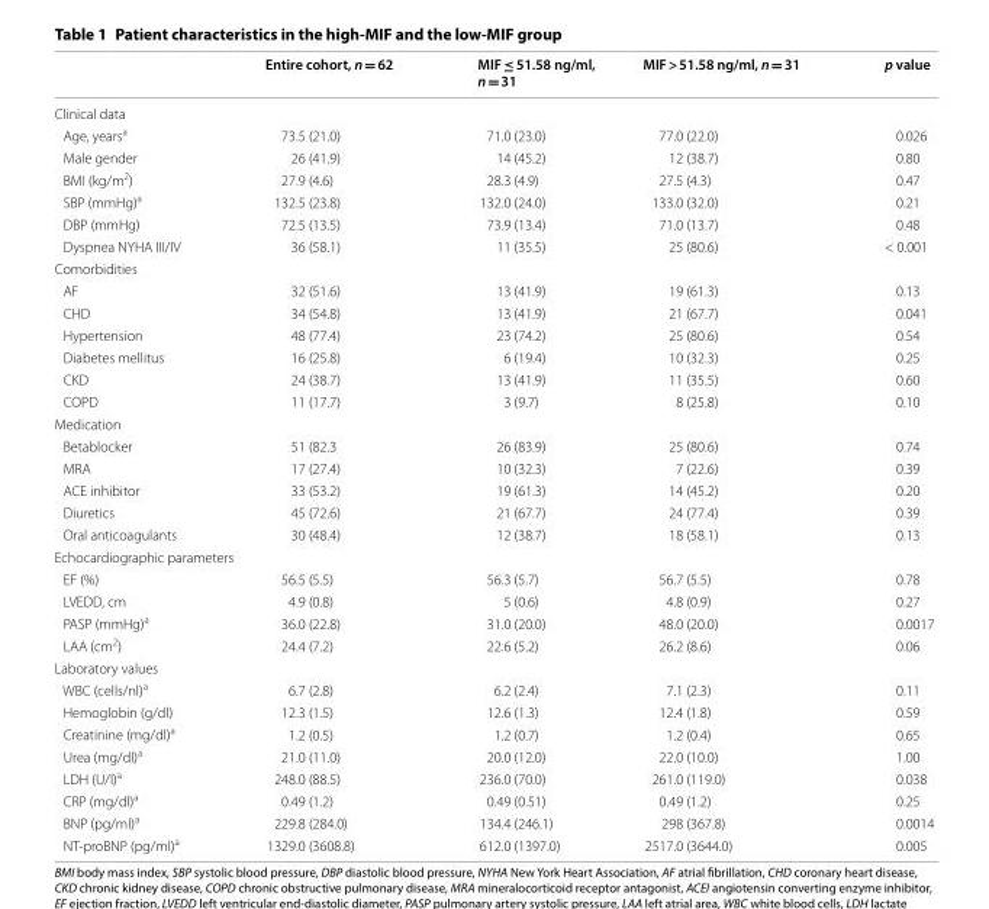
<table><thead><tr><td></td><td>Entire cohort, n = 62</td><td>MIF ≤ 51.58 ng/ml, n = 31</td><td>MIF &gt; 51.58 ng/ml, n = 31</td><td>p value</td></tr></thead><tbody><tr><td colspan="5">Clinical data</td></tr><tr><td>Age, years<sup>a</sup></td><td>73.5 (21.0)</td><td>71.0 (23.0)</td><td>77.0 (22.0)</td><td>0.026</td></tr><tr><td>Male gender</td><td>26 (41.9)</td><td>14 (45.2)</td><td>12 (38.7)</td><td>0.80</td></tr><tr><td>BMI (kg/m<sup>2</sup>)</td><td>27.9 (4.6)</td><td>28.3 (4.9)</td><td>27.5 (4.3)</td><td>0.47</td></tr><tr><td>SBP (mmHg)<sup>a</sup></td><td>132.5 (23.8)</td><td>132.0 (24.0)</td><td>133.0 (32.0)</td><td>0.21</td></tr><tr><td>DBP (mmHg)</td><td>72.5 (13.5)</td><td>73.9 (13.4)</td><td>71.0 (13.7)</td><td>0.48</td></tr><tr><td>Dyspnea NYHA III/IV</td><td>36 (58.1)</td><td>11 (35.5)</td><td>25 (80.6)</td><td>&lt; 0.001</td></tr><tr><td colspan="5">Comorbidities</td></tr><tr><td>AF</td><td>32 (51.6)</td><td>13 (41.9)</td><td>19 (61.3)</td><td>0.13</td></tr><tr><td>CHD</td><td>34 (54.8)</td><td>13 (41.9)</td><td>21 (67.7)</td><td>0.041</td></tr><tr><td>Hypertension</td><td>48 (77.4)</td><td>23 (74.2)</td><td>25 (80.6)</td><td>0.54</td></tr><tr><td>Diabetes mellitus</td><td>16 (25.8)</td><td>6 (19.4)</td><td>10 (32.3)</td><td>0.25</td></tr><tr><td>CKD</td><td>24 (38.7)</td><td>13 (41.9)</td><td>11 (35.5)</td><td>0.60</td></tr><tr><td>COPD</td><td>11 (17.7)</td><td>3 (9.7)</td><td>8 (25.8)</td><td>0.10</td></tr><tr><td colspan="5">Medication</td></tr><tr><td>Betablocker</td><td>51 (82.3</td><td>26 (83.9)</td><td>25 (80.6)</td><td>0.74</td></tr><tr><td>MRA</td><td>17 (27.4)</td><td>10 (32.3)</td><td>7 (22.6)</td><td>0.39</td></tr><tr><td>ACE inhibitor</td><td>33 (53.2)</td><td>19 (61.3)</td><td>14 (45.2)</td><td>0.20</td></tr><tr><td>Diuretics</td><td>45 (72.6)</td><td>21 (67.7)</td><td>24 (77.4)</td><td>0.39</td></tr><tr><td>Oral anticoagulants</td><td>30 (48.4)</td><td>12 (38.7)</td><td>18 (58.1)</td><td>0.13</td></tr><tr><td colspan="5">Echocardiographic parameters</td></tr><tr><td>EF (%)</td><td>56.5 (5.5)</td><td>56.3 (5.7)</td><td>56.7 (5.5)</td><td>0.78</td></tr><tr><td>LVEDD, cm</td><td>4.9 (0.8)</td><td>5 (0.6)</td><td>4.8 (0.9)</td><td>0.27</td></tr><tr><td>PASP (mmHg)<sup>a</sup></td><td>36.0 (22.8)</td><td>31.0 (20.0)</td><td>48.0 (20.0)</td><td>0.0017</td></tr><tr><td>LAA (cm<sup>2</sup>)</td><td>24.4 (7.2)</td><td>22.6 (5.2)</td><td>26.2 (8.6)</td><td>0.06</td></tr><tr><td colspan="5">Laboratory values</td></tr><tr><td>WBC (cells/nl)<sup>a</sup></td><td>6.7 (2.8)</td><td>6.2 (2.4)</td><td>7.1 (2.3)</td><td>0.11</td></tr><tr><td>Hemoglobin (g/dl)</td><td>12.3 (1.5)</td><td>12.6 (1.3)</td><td>12.4 (1.8)</td><td>0.59</td></tr><tr><td>Creatinine (mg/dl)<sup>a</sup></td><td>1.2 (0.5)</td><td>1.2 (0.7)</td><td>1.2 (0.4)</td><td>0.65</td></tr><tr><td>Urea (mg/dl)<sup>a</sup></td><td>21.0 (11.0)</td><td>20.0 (12.0)</td><td>22.0 (10.0)</td><td>1.00</td></tr><tr><td>LDH (U/l)<sup>a</sup></td><td>248.0 (88.5)</td><td>236.0 (70.0)</td><td>261.0 (119.0)</td><td>0.038</td></tr><tr><td>CRP (mg/dl)<sup>a</sup></td><td>0.49 (1.2)</td><td>0.49 (0.51)</td><td>0.49 (1.2)</td><td>0.25</td></tr><tr><td>BNP (pg/ml)<sup>a</sup></td><td>229.8 (284.0)</td><td>134.4 (246.1)</td><td>298 (367.8)</td><td>0.0014</td></tr><tr><td>NT-proBNP (pg/ml)<sup>a</sup></td><td>1329.0 (3608.8)</td><td>612.0 (1397.0)</td><td>2517.0 (3644.0)</td><td>0.005</td></tr></tbody></table>